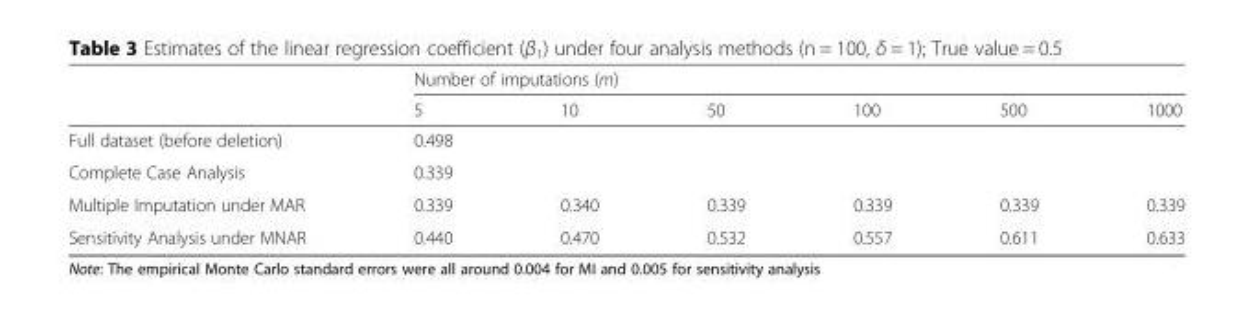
<table><thead><tr><td rowspan="2"></td><td colspan="6">Number of imputations (m)</td></tr><tr><td>5</td><td>10</td><td>50</td><td>100</td><td>500</td><td>1000</td></tr></thead><tbody><tr><td>Full dataset (before deletion)</td><td>0.498</td><td></td><td></td><td></td><td></td><td></td></tr><tr><td>Complete Case Analysis</td><td>0.339</td><td></td><td></td><td></td><td></td><td></td></tr><tr><td>Multiple Imputation under MAR</td><td>0.339</td><td>0.340</td><td>0.339</td><td>0.339</td><td>0.339</td><td>0.339</td></tr><tr><td>Sensitivity Analysis under MNAR</td><td>0.440</td><td>0.470</td><td>0.532</td><td>0.557</td><td>0.611</td><td>0.633</td></tr></tbody></table>